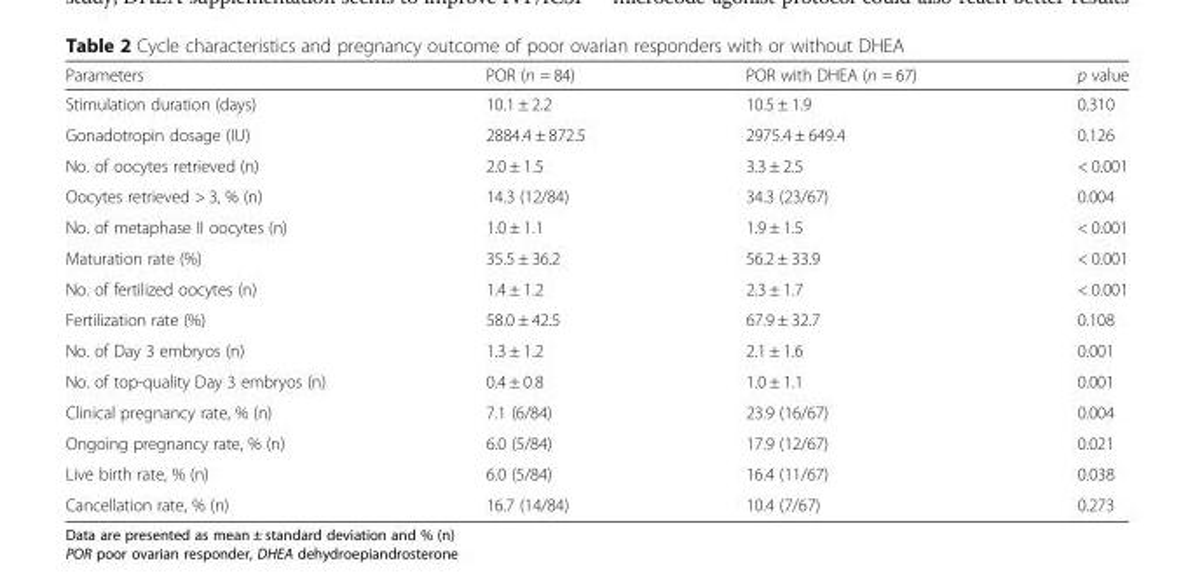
<table><thead><tr><td>Parameters</td><td>POR (n = 84)</td><td>POR with DHEA (n = 67)</td><td>p value</td></tr></thead><tbody><tr><td>Stimulation duration (days)</td><td>10.1 ± 2.2</td><td>10.5 ± 1.9</td><td>0.310</td></tr><tr><td>Gonadotropin dosage (IU)</td><td>2884.4 ± 872.5</td><td>2975.4 ± 649.4</td><td>0.126</td></tr><tr><td>No. of oocytes retrieved (n)</td><td>2.0 ± 1.5</td><td>3.3 ± 2.5</td><td>&lt; 0.001</td></tr><tr><td>Oocytes retrieved &gt; 3, % (n)</td><td>14.3 (12/84)</td><td>34.3 (23/67)</td><td>0.004</td></tr><tr><td>No. of metaphase II oocytes (n)</td><td>1.0 ± 1.1</td><td>1.9 ± 1.5</td><td>&lt; 0.001</td></tr><tr><td>Maturation rate (%)</td><td>35.5 ± 36.2</td><td>56.2 ± 33.9</td><td>&lt; 0.001</td></tr><tr><td>No. of fertilized oocytes (n)</td><td>1.4 ± 1.2</td><td>2.3 ± 1.7</td><td>&lt; 0.001</td></tr><tr><td>Fertilization rate (%)</td><td>58.0 ± 42.5</td><td>67.9 ± 32.7</td><td>0.108</td></tr><tr><td>No. of Day 3 embryos (n)</td><td>1.3 ± 1.2</td><td>2.1 ± 1.6</td><td>0.001</td></tr><tr><td>No. of top-quality Day 3 embryos (n)</td><td>0.4 ± 0.8</td><td>1.0 ± 1.1</td><td>0.001</td></tr><tr><td>Clinical pregnancy rate, % (n)</td><td>7.1 (6/84)</td><td>23.9 (16/67)</td><td>0.004</td></tr><tr><td>Ongoing pregnancy rate, % (n)</td><td>6.0 (5/84)</td><td>17.9 (12/67)</td><td>0.021</td></tr><tr><td>Live birth rate, % (n)</td><td>6.0 (5/84)</td><td>16.4 (11/67)</td><td>0.038</td></tr><tr><td>Cancellation rate, % (n)</td><td>16.7 (14/84)</td><td>10.4 (7/67)</td><td>0.273</td></tr></tbody></table>